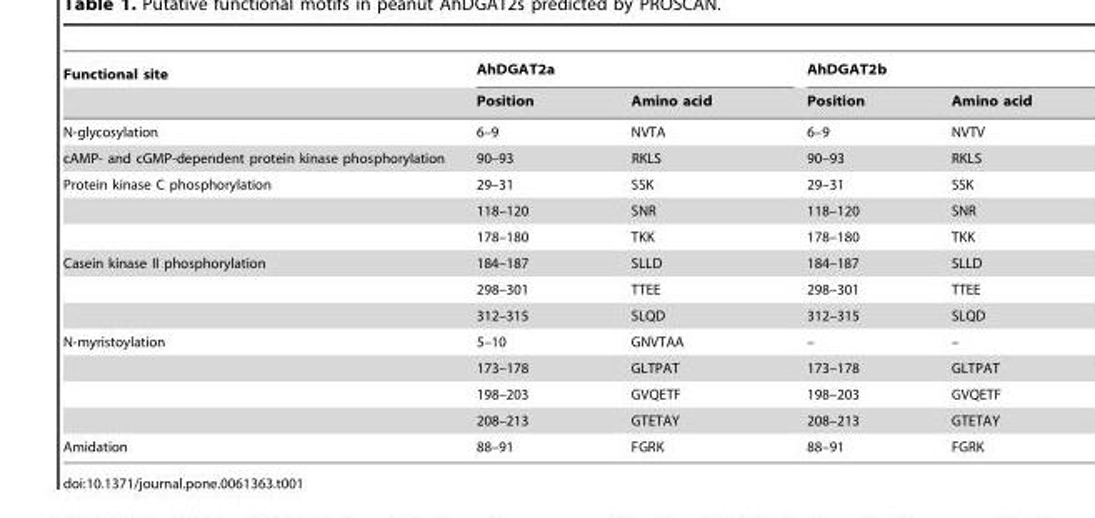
<table><thead><tr><td rowspan="2">Functional site</td><td colspan="2">AhDGAT2a</td><td colspan="2">AhDGAT2b</td></tr><tr><td>Position</td><td>Amino acid</td><td>Position</td><td>Amino acid</td></tr></thead><tbody><tr><td>N-glycosylation</td><td>6–9</td><td>NVTA</td><td>6–9</td><td>NVTV</td></tr><tr><td>cAMP- and cGMP-dependent protein kinase phosphorylation</td><td>90–93</td><td>RKLS</td><td>90–93</td><td>RKLS</td></tr><tr><td rowspan="3">Protein kinase C phosphorylation</td><td>29–31</td><td>SSK</td><td>29–31</td><td>SSK</td></tr><tr><td>118–120</td><td>SNR</td><td>118–120</td><td>SNR</td></tr><tr><td>178–180</td><td>TKK</td><td>178–180</td><td>TKK</td></tr><tr><td rowspan="3">Casein kinase II phosphorylation</td><td>184–187</td><td>SLLD</td><td>184–187</td><td>SLLD</td></tr><tr><td>298–301</td><td>TTEE</td><td>298–301</td><td>TTEE</td></tr><tr><td>312–315</td><td>SLQD</td><td>312–315</td><td>SLQD</td></tr><tr><td rowspan="4">N-myristoylation</td><td>5–10</td><td>GNVTAA</td><td>–</td><td>–</td></tr><tr><td>173–178</td><td>GLTPAT</td><td>173–178</td><td>GLTPAT</td></tr><tr><td>198–203</td><td>GVQETF</td><td>198–203</td><td>GVQETF</td></tr><tr><td>208–213</td><td>GTETAY</td><td>208–213</td><td>GTETAY</td></tr><tr><td>Amidation</td><td>88–91</td><td>FGRK</td><td>88–91</td><td>FGRK</td></tr></tbody></table>